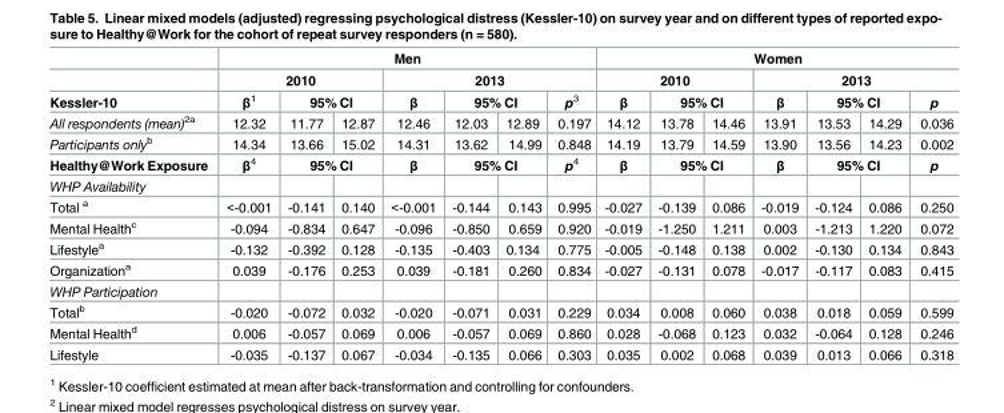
<table><thead><tr><td rowspan="4">Kessler-10 All respondents (mean)<sup>2a</sup></td><td colspan="7">Men</td><td colspan="7">Women</td></tr><tr><td colspan="3">2010</td><td colspan="4">2013</td><td colspan="3">2010</td><td colspan="4">2013</td></tr><tr><td rowspan="2">β<sup>1</sup> 12.32</td><td colspan="2">95% CI</td><td rowspan="2">β 12.46</td><td colspan="2">95% CI</td><td rowspan="2">p<sup>3</sup> 0.197</td><td rowspan="2">β 14.12</td><td colspan="2">95% CI</td><td rowspan="2">β 13.91</td><td colspan="2">95% CI</td><td rowspan="2">p 0.036</td></tr><tr><td>11.77</td><td>12.87</td><td>12.03</td><td>12.89</td><td>13.78</td><td>14.46</td><td>13.53</td><td>14.29</td></tr></thead><tbody><tr><td>Participants only<sup>b</sup></td><td>14.34</td><td>13.66</td><td>15.02</td><td>14.31</td><td>13.62</td><td>14.99</td><td>0.848</td><td>14.19</td><td>13.79</td><td>14.59</td><td>13.90</td><td>13.56</td><td>14.23</td><td>0.002</td></tr><tr><td>Healthy@Work Exposure</td><td>β<sup>4</sup></td><td colspan="2">95% CI</td><td>β</td><td colspan="2">95% CI</td><td>p<sup>4</sup></td><td>β</td><td colspan="2">95% CI</td><td>β</td><td colspan="2">95% CI</td><td>p</td></tr><tr><td colspan="15">WHP Availability</td></tr><tr><td>Total <sup>a</sup></td><td>&lt;-0.001</td><td>-0.141</td><td>0.140</td><td>&lt;-0.001</td><td>-0.144</td><td>0.143</td><td>0.995</td><td>-0.027</td><td>-0.139</td><td>0.086</td><td>-0.019</td><td>-0.124</td><td>0.086</td><td>0.250</td></tr><tr><td>Mental Health<sup>c</sup></td><td>-0.094</td><td>-0.834</td><td>0.647</td><td>-0.096</td><td>-0.850</td><td>0.659</td><td>0.920</td><td>-0.019</td><td>-1.250</td><td>1.211</td><td>0.003</td><td>-1.213</td><td>1.220</td><td>0.072</td></tr><tr><td>Lifestyle<sup>a</sup></td><td>-0.132</td><td>-0.392</td><td>0.128</td><td>-0.135</td><td>-0.403</td><td>0.134</td><td>0.775</td><td>-0.005</td><td>-0.148</td><td>0.138</td><td>0.002</td><td>-0.130</td><td>0.134</td><td>0.843</td></tr><tr><td>Organization<sup>a</sup></td><td>0.039</td><td>-0.176</td><td>0.253</td><td>0.039</td><td>-0.181</td><td>0.260</td><td>0.834</td><td>-0.027</td><td>-0.131</td><td>0.078</td><td>-0.017</td><td>-0.117</td><td>0.083</td><td>0.415</td></tr><tr><td colspan="15">WHP Participation</td></tr><tr><td>Total<sup>b</sup></td><td>-0.020</td><td>-0.072</td><td>0.032</td><td>-0.020</td><td>-0.071</td><td>0.031</td><td>0.229</td><td>0.034</td><td>0.008</td><td>0.060</td><td>0.038</td><td>0.018</td><td>0.059</td><td>0.599</td></tr><tr><td>Mental Health<sup>d</sup></td><td>0.006</td><td>-0.057</td><td>0.069</td><td>0.006</td><td>-0.057</td><td>0.069</td><td>0.860</td><td>0.028</td><td>-0.068</td><td>0.123</td><td>0.032</td><td>-0.064</td><td>0.128</td><td>0.246</td></tr><tr><td>Lifestyle</td><td>-0.035</td><td>-0.137</td><td>0.067</td><td>-0.034</td><td>-0.135</td><td>0.066</td><td>0.303</td><td>0.035</td><td>0.002</td><td>0.068</td><td>0.039</td><td>0.013</td><td>0.066</td><td>0.318</td></tr></tbody></table>